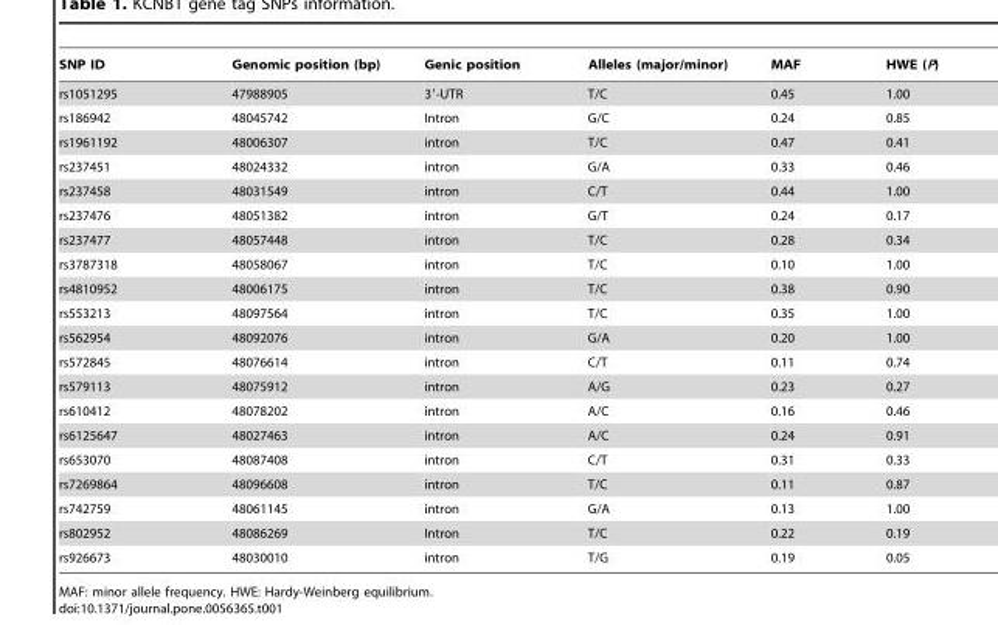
<table><thead><tr><td>SNP ID</td><td>Genomic position (bp)</td><td>Genic position</td><td>Alleles (major/minor)</td><td>MAF</td><td>HWE (P)</td></tr></thead><tbody><tr><td>rs1051295</td><td>47988905</td><td>3′-UTR</td><td>T/C</td><td>0.45</td><td>1.00</td></tr><tr><td>rs186942</td><td>48045742</td><td>Intron</td><td>G/C</td><td>0.24</td><td>0.85</td></tr><tr><td>rs1961192</td><td>48006307</td><td>intron</td><td>T/C</td><td>0.47</td><td>0.41</td></tr><tr><td>rs237451</td><td>48024332</td><td>intron</td><td>G/A</td><td>0.33</td><td>0.46</td></tr><tr><td>rs237458</td><td>48031549</td><td>intron</td><td>C/T</td><td>0.44</td><td>1.00</td></tr><tr><td>rs237476</td><td>48051382</td><td>intron</td><td>G/T</td><td>0.24</td><td>0.17</td></tr><tr><td>rs237477</td><td>48057448</td><td>intron</td><td>T/C</td><td>0.28</td><td>0.34</td></tr><tr><td>rs3787318</td><td>48058067</td><td>intron</td><td>T/C</td><td>0.10</td><td>1.00</td></tr><tr><td>rs4810952</td><td>48006175</td><td>intron</td><td>T/C</td><td>0.38</td><td>0.90</td></tr><tr><td>rs553213</td><td>48097564</td><td>intron</td><td>T/C</td><td>0.35</td><td>1.00</td></tr><tr><td>rs562954</td><td>48092076</td><td>intron</td><td>G/A</td><td>0.20</td><td>1.00</td></tr><tr><td>rs572845</td><td>48076614</td><td>intron</td><td>C/T</td><td>0.11</td><td>0.74</td></tr><tr><td>rs579113</td><td>48075912</td><td>intron</td><td>A/G</td><td>0.23</td><td>0.27</td></tr><tr><td>rs610412</td><td>48078202</td><td>intron</td><td>A/C</td><td>0.16</td><td>0.46</td></tr><tr><td>rs6125647</td><td>48027463</td><td>intron</td><td>A/C</td><td>0.24</td><td>0.91</td></tr><tr><td>rs653070</td><td>48087408</td><td>intron</td><td>C/T</td><td>0.31</td><td>0.33</td></tr><tr><td>rs7269864</td><td>48096608</td><td>intron</td><td>T/C</td><td>0.11</td><td>0.87</td></tr><tr><td>rs742759</td><td>48061145</td><td>intron</td><td>G/A</td><td>0.13</td><td>1.00</td></tr><tr><td>rs802952</td><td>48086269</td><td>Intron</td><td>T/C</td><td>0.22</td><td>0.19</td></tr><tr><td>rs926673</td><td>48030010</td><td>intron</td><td>T/G</td><td>0.19</td><td>0.05</td></tr></tbody></table>